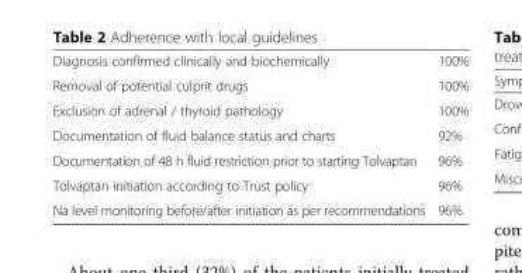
<table><tbody><tr><td>Diagnosis confirmed clinically and biochemically</td><td>100%</td></tr><tr><td>Removal of potential culprit drugs</td><td>100%</td></tr><tr><td>Exclusion of adrenal / thyroid pathology</td><td>100%</td></tr><tr><td>Documentation of fluid balance status and charts</td><td>92%</td></tr><tr><td>Documentation of 48 h fluid restriction prior to starting Tolvaptan</td><td>96%</td></tr><tr><td>Tolvaptan initiation according to Trust policy</td><td>96%</td></tr><tr><td>Na level monitoring before/after initiation as per recommendations</td><td>96%</td></tr></tbody></table>